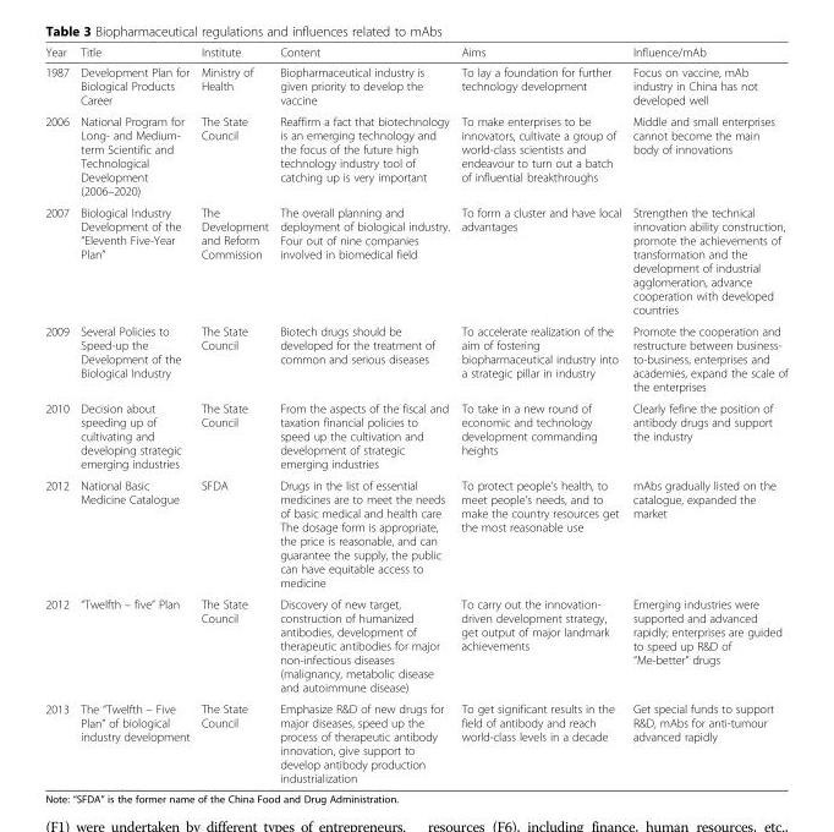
<table><thead><tr><td>Year</td><td>Title</td><td>Institute</td><td>Content</td><td>Aims</td><td>Influence/mAb</td></tr></thead><tbody><tr><td>1987</td><td>Development Plan for Biological Products Career</td><td>Ministry of Health</td><td>Biopharmaceutical industry is given priority to develop the vaccine</td><td>To lay a foundation for further technology development</td><td>Focus on vaccine, mAb industry in China has not developed well</td></tr><tr><td>2006</td><td>National Program for Long- and Medium- term Scientific and Technological Development (2006–2020)</td><td>The State Council</td><td>Reaffirm a fact that biotechnology is an emerging technology and the focus of the future high technology industry tool of catching up is very important</td><td>To make enterprises to be innovators, cultivate a group of world-class scientists and endeavour to turn out a batch of influential breakthroughs</td><td>Middle and small enterprises cannot become the main body of innovations</td></tr><tr><td>2007</td><td>Biological Industry Development of the “Eleventh Five-Year Plan”</td><td>The Development and Reform Commission</td><td>The overall planning and deployment of biological industry. Four out of nine companies involved in biomedical field</td><td>To form a cluster and have local advantages</td><td>Strengthen the technical innovation ability construction, promote the achievements of transformation and the development of industrial agglomeration, advance cooperation with developed countries</td></tr><tr><td>2009</td><td>Several Policies to Speed-up the Development of the Biological Industry</td><td>The State Council</td><td>Biotech drugs should be developed for the treatment of common and serious diseases</td><td>To accelerate realization of the aim of fostering biopharmaceutical industry into a strategic pillar in industry</td><td>Promote the cooperation and restructure between business- to-business, enterprises and academies, expand the scale of the enterprises</td></tr><tr><td>2010</td><td>Decision about speeding up of cultivating and developing strategic emerging industries</td><td>The State Council</td><td>From the aspects of the fiscal and taxation financial policies to speed up the cultivation and development of strategic emerging industries</td><td>To take in a new round of economic and technology development commanding heights</td><td>Clearly fefine the position of antibody drugs and support the industry</td></tr><tr><td>2012</td><td>National Basic Medicine Catalogue</td><td>SFDA</td><td>Drugs in the list of essential medicines are to meet the needs of basic medical and health care The dosage form is appropriate, the price is reasonable, and can guarantee the supply, the public can have equitable access to medicine</td><td>To protect people’s health, to meet people&#x27;s needs, and to make the country resources get the most reasonable use</td><td>mAbs gradually listed on the catalogue, expanded the market</td></tr><tr><td>2012</td><td>“Twelfth – five” Plan</td><td>The State Council</td><td>Discovery of new target, construction of humanized antibodies, development of therapeutic antibodies for major non-infectious diseases (malignancy, metabolic disease and autoimmune disease)</td><td>To carry out the innovation- driven development strategy, get output of major landmark achievements</td><td>Emerging industries were supported and advanced rapidly; enterprises are guided to speed up R&amp;D of “Me-better” drugs</td></tr><tr><td>2013</td><td>The “Twelfth – Five Plan” of biological industry development</td><td>The State Council</td><td>Emphasize R&amp;D of new drugs for major diseases, speed up the process of therapeutic antibody innovation, give support to develop antibody production industrialization</td><td>To get significant results in the field of antibody and reach world-class levels in a decade</td><td>Get special funds to support R&amp;D, mAbs for anti-tumour advanced rapidly</td></tr></tbody></table>